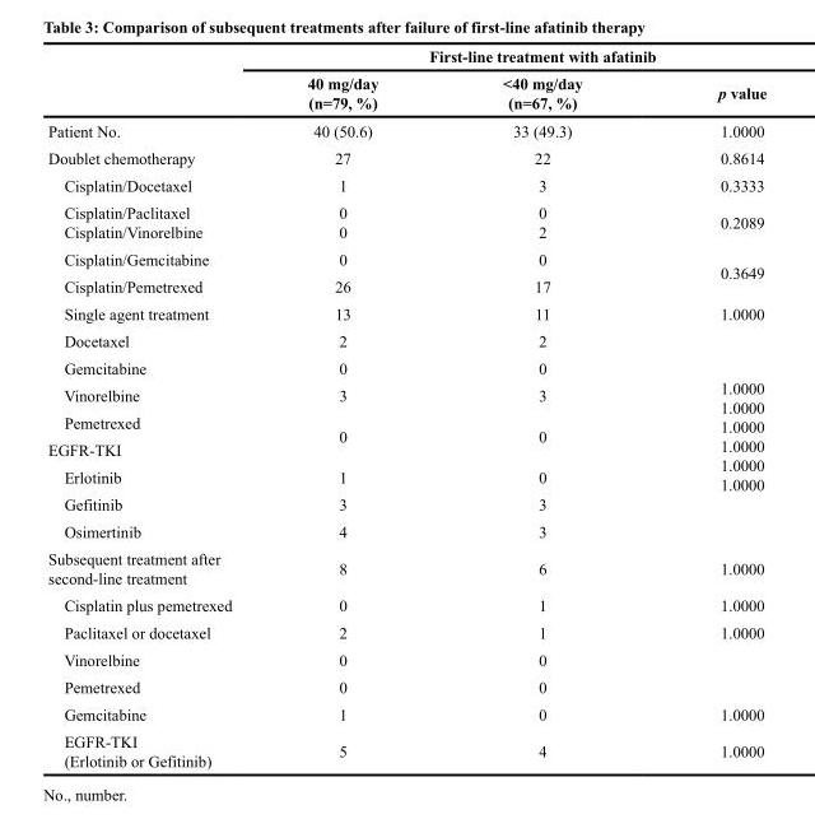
<table><thead><tr><td rowspan="2"></td><td colspan="3">First-line treatment with afatinib</td></tr><tr><td>40 mg/day (n=79, %)</td><td>&lt;40 mg/day (n=67, %)</td><td>p value</td></tr></thead><tbody><tr><td>Patient No.</td><td>40 (50.6)</td><td>33 (49.3)</td><td>1.0000</td></tr><tr><td>Doublet chemotherapy</td><td>27</td><td>22</td><td>0.8614</td></tr><tr><td>Cisplatin/Docetaxel</td><td>1</td><td>3</td><td>0.3333</td></tr><tr><td>Cisplatin/Paclitaxel Cisplatin/Vinorelbine</td><td>0 0</td><td>0 2</td><td>0.2089</td></tr><tr><td>Cisplatin/Gemcitabine</td><td>0</td><td>0</td><td rowspan="2">0.3649</td></tr><tr><td>Cisplatin/Pemetrexed</td><td>26</td><td>17</td></tr><tr><td>Single agent treatment</td><td>13</td><td>11</td><td>1.0000</td></tr><tr><td>Docetaxel</td><td>2</td><td>2</td><td rowspan="8">1.0000 1.0000 1.0000 1.0000 1.0000 1.0000</td></tr><tr><td>Gemcitabine</td><td>0</td><td>0</td></tr><tr><td>Vinorelbine</td><td>3</td><td>3</td></tr><tr><td>Pemetrexed</td><td rowspan="2">0</td><td rowspan="2">0</td></tr><tr><td>EGFR-TKI</td></tr><tr><td>Erlotinib</td><td>1</td><td>0</td></tr><tr><td>Gefitinib</td><td>3</td><td>3</td></tr><tr><td>Osimertinib</td><td>4</td><td>3</td></tr><tr><td>Subsequent treatment after second-line treatment</td><td>8</td><td>6</td><td>1.0000</td></tr><tr><td>Cisplatin plus pemetrexed</td><td>0</td><td>1</td><td>1.0000</td></tr><tr><td>Paclitaxel or docetaxel</td><td>2</td><td>1</td><td>1.0000</td></tr><tr><td>Vinorelbine</td><td>0</td><td>0</td><td></td></tr><tr><td>Pemetrexed</td><td>0</td><td>0</td><td></td></tr><tr><td>Gemcitabine</td><td>1</td><td>0</td><td>1.0000</td></tr><tr><td>EGFR-TKI (Erlotinib or Gefitinib)</td><td>5</td><td>4</td><td>1.0000</td></tr></tbody></table>